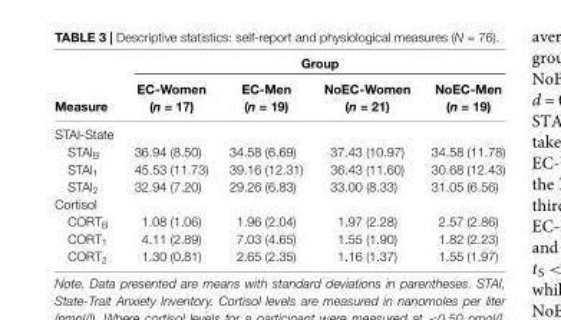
<table><thead><tr><td rowspan="2">Measure</td><td colspan="4">Group</td></tr><tr><td>EC-Women (n = 17)</td><td>EC-Men (n = 19)</td><td>NoEC-Women (n = 21)</td><td>NoEC-Men (n = 19)</td></tr></thead><tbody><tr><td colspan="5">STAI-State</td></tr><tr><td>STAI<sub>B</sub></td><td>36.94 (8.50)</td><td>34.58 (6.69)</td><td>37.43 (10.97)</td><td>34.58 (11.78)</td></tr><tr><td>STAI<sub>1</sub></td><td>45.53 (11.73)</td><td>39.16 (12.31)</td><td>36.43 (11.60)</td><td>30.68 (12.43)</td></tr><tr><td>STAI<sub>2</sub></td><td>32.94 (7.20)</td><td>29.26 (6.83)</td><td>33.00 (8.33)</td><td>31.05 (6.56)</td></tr><tr><td colspan="5">Cortisol</td></tr><tr><td>CORT<sub>B</sub></td><td>1.08 (1.06)</td><td>1.96 (2.04)</td><td>1.97 (2.28)</td><td>2.57 (2.86)</td></tr><tr><td>CORT<sub>1</sub></td><td>4.11 (2.89)</td><td>7.03 (4.65)</td><td>1.55 (1.90)</td><td>1.82 (2.23)</td></tr><tr><td>CORT<sub>2</sub></td><td>1.30 (0.81)</td><td>2.65 (2.35)</td><td>1.16 (1.37)</td><td>1.55 (1.97)</td></tr></tbody></table>